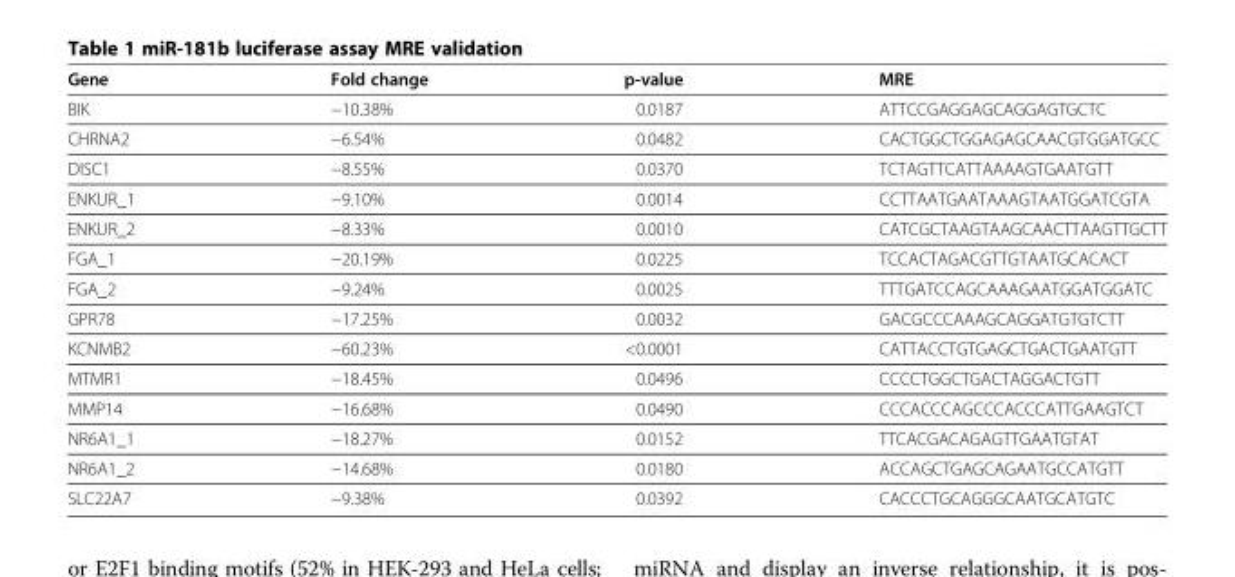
<table><thead><tr><td>Gene</td><td>Fold change</td><td>p-value</td><td>MRE</td></tr></thead><tbody><tr><td>BIK</td><td>−10.38%</td><td>0.0187</td><td>ATTCCGAGGAGCAGGAGTGCTC</td></tr><tr><td>CHRNA2</td><td>−6.54%</td><td>0.0482</td><td>CACTGGCTGGAGAGCAACGTGGATGCC</td></tr><tr><td>DISC1</td><td>−8.55%</td><td>0.0370</td><td>TCTAGTTCATTAAAAGTGAATGTT</td></tr><tr><td>ENKUR_1</td><td>−9.10%</td><td>0.0014</td><td>CCTTAATGAATAAAGTAATGGATCGTA</td></tr><tr><td>ENKUR_2</td><td>−8.33%</td><td>0.0010</td><td>CATCGCTAAGTAAGCAACTTAAGTTGCTT</td></tr><tr><td>FGA_1</td><td>−20.19%</td><td>0.0225</td><td>TCCACTAGACGTTGTAATGCACACT</td></tr><tr><td>FGA_2</td><td>−9.24%</td><td>0.0025</td><td>TTTGATCCAGCAAAGAATGGATGGATC</td></tr><tr><td>GPR78</td><td>−17.25%</td><td>0.0032</td><td>GACGCCCAAAGCAGGATGTGTCTT</td></tr><tr><td>KCNMB2</td><td>−60.23%</td><td>&lt;0.0001</td><td>CATTACCTGTGAGCTGACTGAATGTT</td></tr><tr><td>MTMR1</td><td>−18.45%</td><td>0.0496</td><td>CCCCTGGCTGACTAGGACTGTT</td></tr><tr><td>MMP14</td><td>−16.68%</td><td>0.0490</td><td>CCCACCCAGCCCACCCATTGAAGTCT</td></tr><tr><td>NR6A1_1</td><td>−18.27%</td><td>0.0152</td><td>TTCACGACAGAGTTGAATGTAT</td></tr><tr><td>NR6A1_2</td><td>−14.68%</td><td>0.0180</td><td>ACCAGCTGAGCAGAATGCCATGTT</td></tr><tr><td>SLC22A7</td><td>−9.38%</td><td>0.0392</td><td>CACCCTGCAGGGCAATGCATGTC</td></tr></tbody></table>